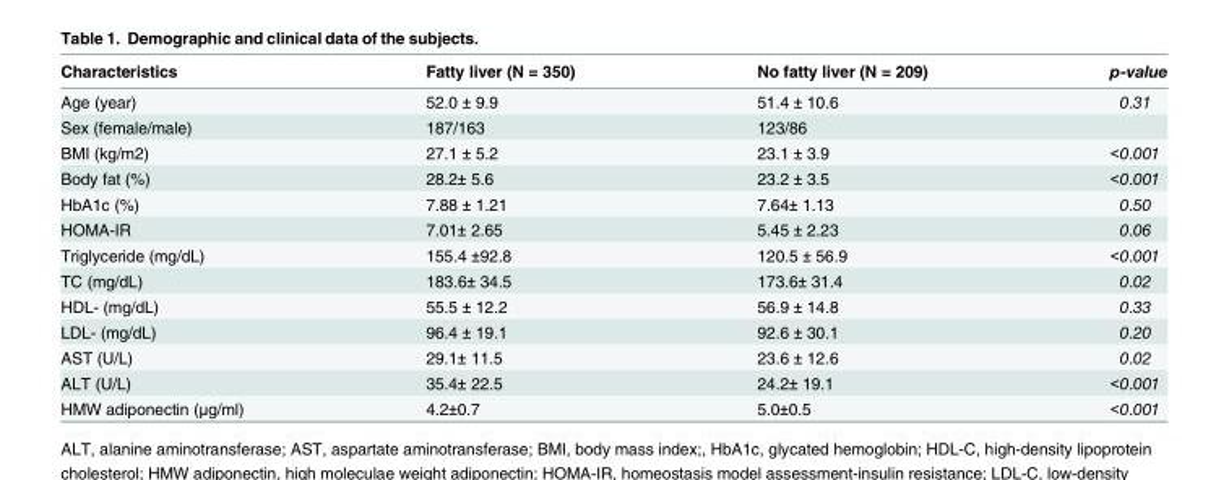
<table><thead><tr><td>Characteristics</td><td>Fatty liver (N = 350)</td><td>No fatty liver (N = 209)</td><td>p-value</td></tr></thead><tbody><tr><td>Age (year)</td><td>52.0 ± 9.9</td><td>51.4 ± 10.6</td><td>0.31</td></tr><tr><td>Sex (female/male)</td><td>187/163</td><td>123/86</td><td></td></tr><tr><td>BMI (kg/m2)</td><td>27.1 ± 5.2</td><td>23.1 ± 3.9</td><td>&lt;0.001</td></tr><tr><td>Body fat (%)</td><td>28.2± 5.6</td><td>23.2 ± 3.5</td><td>&lt;0.001</td></tr><tr><td>HbA1c (%)</td><td>7.88 ± 1.21</td><td>7.64± 1.13</td><td>0.50</td></tr><tr><td>HOMA-IR</td><td>7.01± 2.65</td><td>5.45 ± 2.23</td><td>0.06</td></tr><tr><td>Triglyceride (mg/dL)</td><td>155.4 ±92.8</td><td>120.5 ± 56.9</td><td>&lt;0.001</td></tr><tr><td>TC (mg/dL)</td><td>183.6± 34.5</td><td>173.6± 31.4</td><td>0.02</td></tr><tr><td>HDL- (mg/dL)</td><td>55.5 ± 12.2</td><td>56.9 ± 14.8</td><td>0.33</td></tr><tr><td>LDL- (mg/dL)</td><td>96.4 ± 19.1</td><td>92.6 ± 30.1</td><td>0.20</td></tr><tr><td>AST (U/L)</td><td>29.1± 11.5</td><td>23.6 ± 12.6</td><td>0.02</td></tr><tr><td>ALT (U/L)</td><td>35.4± 22.5</td><td>24.2± 19.1</td><td>&lt;0.001</td></tr><tr><td>HMW adiponectin (μg/ml)</td><td>4.2±0.7</td><td>5.0±0.5</td><td>&lt;0.001</td></tr></tbody></table>